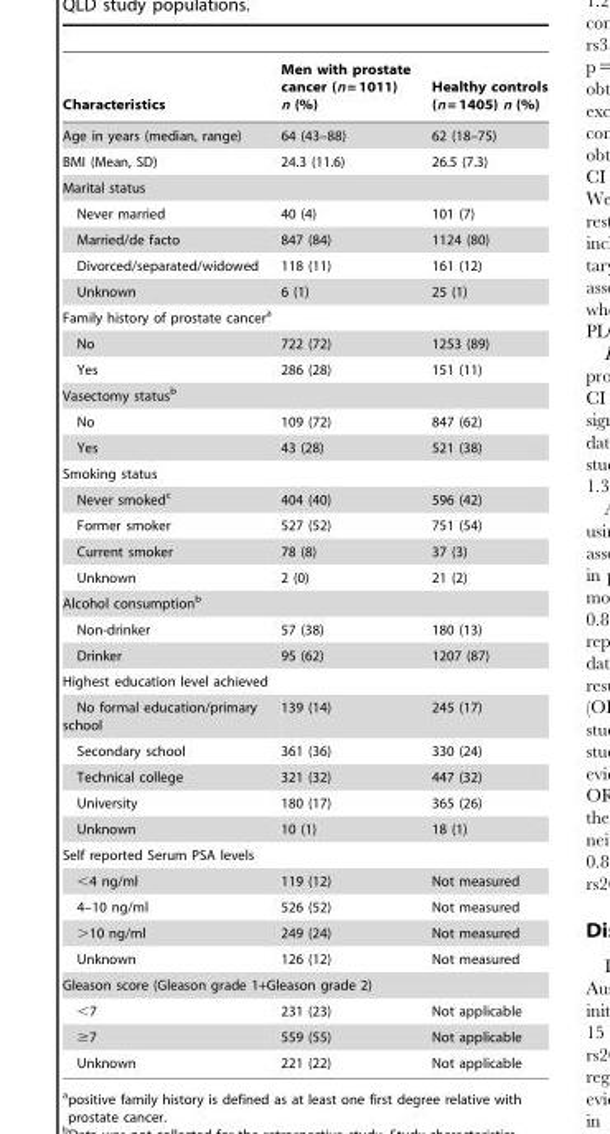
<table><thead><tr><td>Characteristics</td><td>Men with prostate cancer (n = 1011) n (%)</td><td>Healthy controls (n = 1405) n (%)</td></tr></thead><tbody><tr><td>Age in years (median, range)</td><td>64 (43–88)</td><td>62 (18–75)</td></tr><tr><td>BMI (Mean, SD)</td><td>24.3 (11.6)</td><td>26.5 (7.3)</td></tr><tr><td colspan="3">Marital status</td></tr><tr><td>Never married</td><td>40 (4)</td><td>101 (7)</td></tr><tr><td>Married/de facto</td><td>847 (84)</td><td>1124 (80)</td></tr><tr><td>Divorced/separated/widowed</td><td>118 (11)</td><td>161 (12)</td></tr><tr><td>Unknown</td><td>6 (1)</td><td>25 (1)</td></tr><tr><td colspan="3">Family history of prostate cancer<sup>a</sup></td></tr><tr><td>No</td><td>722 (72)</td><td>1253 (89)</td></tr><tr><td>Yes</td><td>286 (28)</td><td>151 (11)</td></tr><tr><td colspan="3">Vasectomy status<sup>b</sup></td></tr><tr><td>No</td><td>109 (72)</td><td>847 (62)</td></tr><tr><td>Yes</td><td>43 (28)</td><td>521 (38)</td></tr><tr><td colspan="3">Smoking status</td></tr><tr><td>Never smoked<sup>c</sup></td><td>404 (40)</td><td>596 (42)</td></tr><tr><td>Former smoker</td><td>527 (52)</td><td>751 (54)</td></tr><tr><td>Current smoker</td><td>78 (8)</td><td>37 (3)</td></tr><tr><td>Unknown</td><td>2 (0)</td><td>21 (2)</td></tr><tr><td colspan="3">Alcohol consumption<sup>b</sup></td></tr><tr><td>Non-drinker</td><td>57 (38)</td><td>180 (13)</td></tr><tr><td>Drinker</td><td>95 (62)</td><td>1207 (87)</td></tr><tr><td colspan="3">Highest education level achieved</td></tr><tr><td>No formal education/primary school</td><td>139 (14)</td><td>245 (17)</td></tr><tr><td>Secondary school</td><td>361 (36)</td><td>330 (24)</td></tr><tr><td>Technical college</td><td>321 (32)</td><td>447 (32)</td></tr><tr><td>University</td><td>180 (17)</td><td>365 (26)</td></tr><tr><td>Unknown</td><td>10 (1)</td><td>18 (1)</td></tr><tr><td colspan="3">Self reported Serum PSA levels</td></tr><tr><td>&lt;4 ng/ml</td><td>119 (12)</td><td>Not measured</td></tr><tr><td>4–10 ng/ml</td><td>526 (52)</td><td>Not measured</td></tr><tr><td>&gt;10 ng/ml</td><td>249 (24)</td><td>Not measured</td></tr><tr><td>Unknown</td><td>126 (12)</td><td>Not measured</td></tr><tr><td colspan="3">Gleason score (Gleason grade 1+Gleason grade 2)</td></tr><tr><td>&lt;7</td><td>231 (23)</td><td>Not applicable</td></tr><tr><td>≥7</td><td>559 (55)</td><td>Not applicable</td></tr><tr><td>Unknown</td><td>221 (22)</td><td>Not applicable</td></tr></tbody></table>